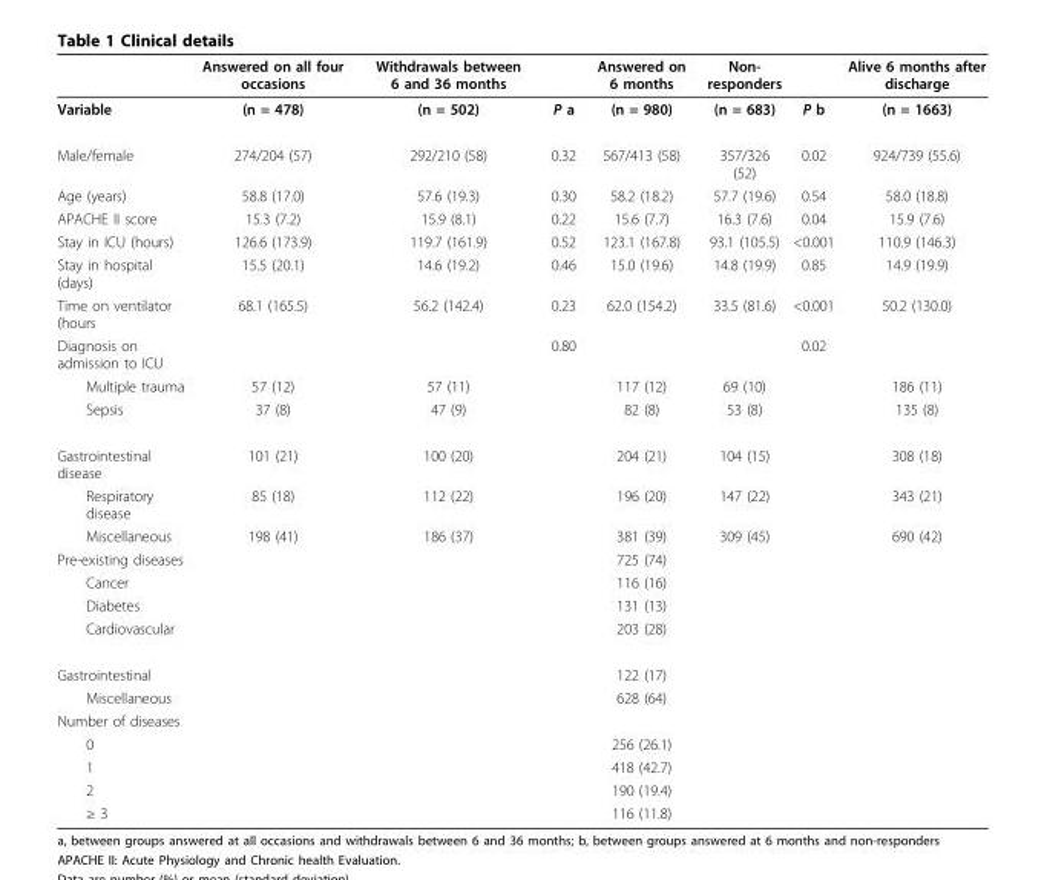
<table><thead><tr><td></td><td>Answered on all four occasions</td><td>Withdrawals between 6 and 36 months</td><td></td><td>Answered on 6 months</td><td>Non- responders</td><td></td><td>Alive 6 months after discharge</td></tr></thead><tbody><tr><td>Variable</td><td>(n = 478)</td><td>(n = 502)</td><td>P a</td><td>(n = 980)</td><td>(n = 683)</td><td>P b</td><td>(n = 1663)</td></tr><tr><td>Male/female</td><td>274/204 (57)</td><td>292/210 (58)</td><td>0.32</td><td>567/413 (58)</td><td>357/326 (52)</td><td>0.02</td><td>924/739 (55.6)</td></tr><tr><td>Age (years)</td><td>58.8 (17.0)</td><td>57.6 (19.3)</td><td>0.30</td><td>58.2 (18.2)</td><td>57.7 (19.6)</td><td>0.54</td><td>58.0 (18.8)</td></tr><tr><td>APACHE II score</td><td>15.3 (7.2)</td><td>15.9 (8.1)</td><td>0.22</td><td>15.6 (7.7)</td><td>16.3 (7.6)</td><td>0.04</td><td>15.9 (7.6)</td></tr><tr><td>Stay in ICU (hours)</td><td>126.6 (173.9)</td><td>119.7 (161.9)</td><td>0.52</td><td>123.1 (167.8)</td><td>93.1 (105.5)</td><td>&lt;0.001</td><td>110.9 (146.3)</td></tr><tr><td>Stay in hospital (days)</td><td>15.5 (20.1)</td><td>14.6 (19.2)</td><td>0.46</td><td>15.0 (19.6)</td><td>14.8 (19.9)</td><td>0.85</td><td>14.9 (19.9)</td></tr><tr><td>Time on ventilator (hours</td><td>68.1 (165.5)</td><td>56.2 (142.4)</td><td>0.23</td><td>62.0 (154.2)</td><td>33.5 (81.6)</td><td>&lt;0.001</td><td>50.2 (130.0)</td></tr><tr><td>Diagnosis on admission to ICU</td><td></td><td></td><td>0.80</td><td></td><td></td><td>0.02</td><td></td></tr><tr><td>Multiple trauma</td><td>57 (12)</td><td>57 (11)</td><td></td><td>117 (12)</td><td>69 (10)</td><td></td><td>186 (11)</td></tr><tr><td>Sepsis</td><td>37 (8)</td><td>47 (9)</td><td></td><td>82 (8)</td><td>53 (8)</td><td></td><td>135 (8)</td></tr><tr><td>Gastrointestinal disease</td><td>101 (21)</td><td>100 (20)</td><td></td><td>204 (21)</td><td>104 (15)</td><td></td><td>308 (18)</td></tr><tr><td>Respiratory disease</td><td>85 (18)</td><td>112 (22)</td><td></td><td>196 (20)</td><td>147 (22)</td><td></td><td>343 (21)</td></tr><tr><td>Miscellaneous</td><td>198 (41)</td><td>186 (37)</td><td></td><td>381 (39)</td><td>309 (45)</td><td></td><td>690 (42)</td></tr><tr><td>Pre-existing diseases</td><td></td><td></td><td></td><td>725 (74)</td><td></td><td></td><td></td></tr><tr><td>Cancer</td><td></td><td></td><td></td><td>116 (16)</td><td></td><td></td><td></td></tr><tr><td>Diabetes</td><td></td><td></td><td></td><td>131 (13)</td><td></td><td></td><td></td></tr><tr><td>Cardiovascular</td><td></td><td></td><td></td><td>203 (28)</td><td></td><td></td><td></td></tr><tr><td>Gastrointestinal</td><td></td><td></td><td></td><td>122 (17)</td><td></td><td></td><td></td></tr><tr><td>Miscellaneous</td><td></td><td></td><td></td><td>628 (64)</td><td></td><td></td><td></td></tr><tr><td colspan="8">Number of diseases</td></tr><tr><td>0</td><td></td><td></td><td></td><td>256 (26.1)</td><td></td><td></td><td></td></tr><tr><td>1</td><td></td><td></td><td></td><td>418 (42.7)</td><td></td><td></td><td></td></tr><tr><td>2</td><td></td><td></td><td></td><td>190 (19.4)</td><td></td><td></td><td></td></tr><tr><td>≥ 3</td><td></td><td></td><td></td><td>116 (11.8)</td><td></td><td></td><td></td></tr></tbody></table>